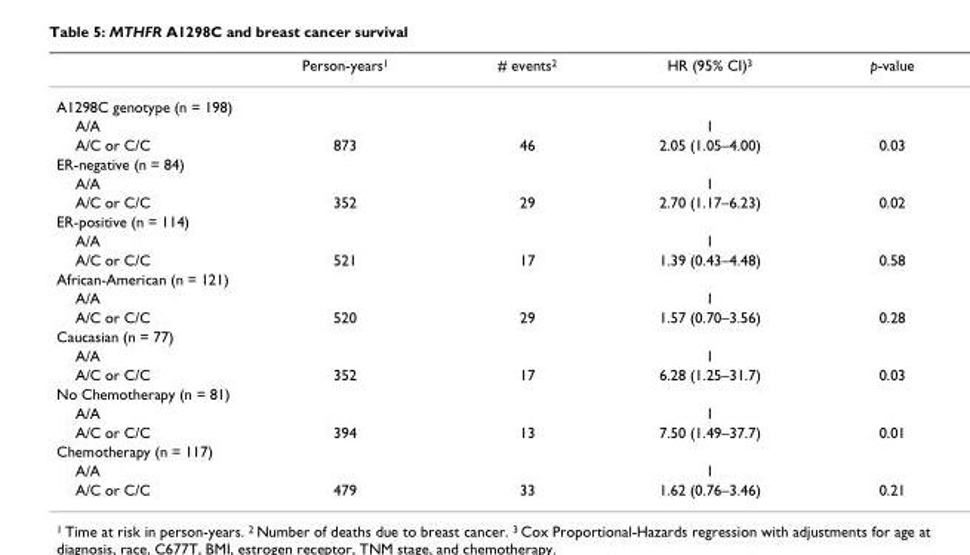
<table><thead><tr><td></td><td>Person-years1</td><td># events2</td><td>HR (95% CI)3</td><td>p-value</td></tr></thead><tbody><tr><td colspan="5">A1298C genotype (n = 198)</td></tr><tr><td>A/A</td><td></td><td></td><td>1</td><td></td></tr><tr><td>A/C or C/C</td><td>873</td><td>46</td><td>2.05 (1.05–4.00)</td><td>0.03</td></tr><tr><td colspan="5">ER-negative (n = 84)</td></tr><tr><td>A/A</td><td></td><td></td><td>1</td><td></td></tr><tr><td>A/C or C/C</td><td>352</td><td>29</td><td>2.70 (1.17–6.23)</td><td>0.02</td></tr><tr><td colspan="5">ER-positive (n = 114)</td></tr><tr><td>A/A</td><td></td><td></td><td>1</td><td></td></tr><tr><td>A/C or C/C</td><td>521</td><td>17</td><td>1.39 (0.43–4.48)</td><td>0.58</td></tr><tr><td colspan="5">African-American (n = 121)</td></tr><tr><td>A/A</td><td></td><td></td><td>1</td><td></td></tr><tr><td>A/C or C/C</td><td>520</td><td>29</td><td>1.57 (0.70–3.56)</td><td>0.28</td></tr><tr><td colspan="5">Caucasian (n = 77)</td></tr><tr><td>A/A</td><td></td><td></td><td>1</td><td></td></tr><tr><td>A/C or C/C</td><td>352</td><td>17</td><td>6.28 (1.25–31.7)</td><td>0.03</td></tr><tr><td colspan="5">No Chemotherapy (n = 81)</td></tr><tr><td>A/A</td><td></td><td></td><td>1</td><td></td></tr><tr><td>A/C or C/C</td><td>394</td><td>13</td><td>7.50 (1.49–37.7)</td><td>0.01</td></tr><tr><td colspan="5">Chemotherapy (n = 117)</td></tr><tr><td>A/A</td><td></td><td></td><td>1</td><td></td></tr><tr><td>A/C or C/C</td><td>479</td><td>33</td><td>1.62 (0.76–3.46)</td><td>0.21</td></tr></tbody></table>